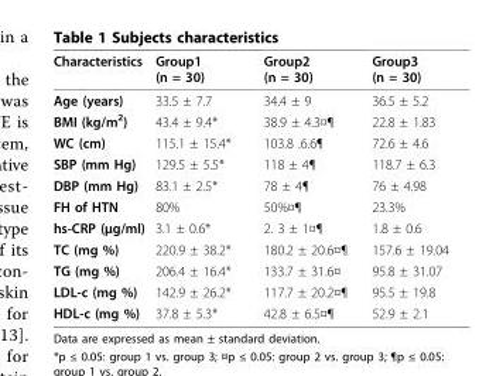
<table><thead><tr><td>Characteristics</td><td>Group1 (n = 30)</td><td>Group2 (n = 30)</td><td>Group3 (n = 30)</td></tr></thead><tbody><tr><td>Age (years)</td><td>33.5 ± 7.7</td><td>34.4 ± 9</td><td>36.5 ± 5.2</td></tr><tr><td>BMI (kg/m<sup>2</sup>)</td><td>43.4 ± 9.4*</td><td>38.9 ± 4.3¤¶</td><td>22.8 ± 1.83</td></tr><tr><td>WC (cm)</td><td>115.1 ± 15.4*</td><td>103.8 .6.6¶</td><td>72.6 ± 4.6</td></tr><tr><td>SBP (mm Hg)</td><td>129.5 ± 5.5*</td><td>118 ± 4¶</td><td>118.7 ± 6.3</td></tr><tr><td>DBP (mm Hg)</td><td>83.1 ± 2.5*</td><td>78 ± 4¶</td><td>76 ± 4.98</td></tr><tr><td>FH of HTN</td><td>80%</td><td>50%¤¶</td><td>23.3%</td></tr><tr><td>hs-CRP (μg/ml)</td><td>3.1 ± 0.6*</td><td>2. 3 ± 1¤¶</td><td>1.8 ± 0.6</td></tr><tr><td>TC (mg %)</td><td>220.9 ± 38.2*</td><td>180.2 ± 20.6¤¶</td><td>157.6 ± 19.04</td></tr><tr><td>TG (mg %)</td><td>206.4 ± 16.4*</td><td>133.7 ± 31.6¤</td><td>95.8 ± 31.07</td></tr><tr><td>LDL-c (mg %)</td><td>142.9 ± 26.2*</td><td>117.7 ± 20.2¤¶</td><td>95.5 ± 19.8</td></tr><tr><td>HDL-c (mg %)</td><td>37.8 ± 5.3*</td><td>42.8 ± 6.5¤¶</td><td>52.9 ± 2.1</td></tr></tbody></table>